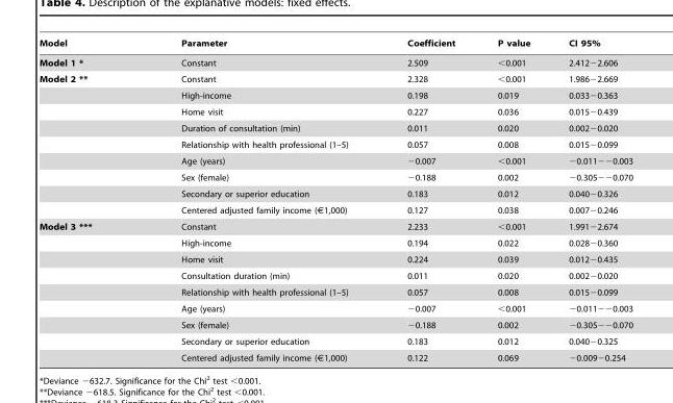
<table><thead><tr><td>Model</td><td>Parameter</td><td>Coefficient</td><td>P value</td><td>CI 95%</td></tr></thead><tbody><tr><td>Model 1 *</td><td>Constant</td><td>2.509</td><td>&lt;0.001</td><td>2.412−2.606</td></tr><tr><td rowspan="9">Model 2 **</td><td>Constant</td><td>2.328</td><td>&lt;0.001</td><td>1.986−2.669</td></tr><tr><td>High-income</td><td>0.198</td><td>0.019</td><td>0.033−0.363</td></tr><tr><td>Home visit</td><td>0.227</td><td>0.036</td><td>0.015−0.439</td></tr><tr><td>Duration of consultation (min)</td><td>0.011</td><td>0.020</td><td>0.002−0.020</td></tr><tr><td>Relationship with health professional (1–5)</td><td>0.057</td><td>0.008</td><td>0.015−0.099</td></tr><tr><td>Age (years)</td><td>−0.007</td><td>&lt;0.001</td><td>−0.011−−0.003</td></tr><tr><td>Sex (female)</td><td>−0.188</td><td>0.002</td><td>−0.305−−0.070</td></tr><tr><td>Secondary or superior education</td><td>0.183</td><td>0.012</td><td>0.040−0.326</td></tr><tr><td>Centered adjusted family income (€1,000)</td><td>0.127</td><td>0.038</td><td>0.007−0.246</td></tr><tr><td rowspan="9">Model 3 ***</td><td>Constant</td><td>2.233</td><td>&lt;0.001</td><td>1.991−2.674</td></tr><tr><td>High-income</td><td>0.194</td><td>0.022</td><td>0.028−0.360</td></tr><tr><td>Home visit</td><td>0.224</td><td>0.039</td><td>0.012−0.435</td></tr><tr><td>Consultation duration (min)</td><td>0.011</td><td>0.020</td><td>0.002−0.020</td></tr><tr><td>Relationship with health professional (1–5)</td><td>0.057</td><td>0.008</td><td>0.015−0.099</td></tr><tr><td>Age (years)</td><td>−0.007</td><td>&lt;0.001</td><td>−0.011−−0.003</td></tr><tr><td>Sex (female)</td><td>−0.188</td><td>0.002</td><td>−0.305−−0.070</td></tr><tr><td>Secondary or superior education</td><td>0.183</td><td>0.012</td><td>0.040−0.325</td></tr><tr><td>Centered adjusted family income (€1,000)</td><td>0.122</td><td>0.069</td><td>−0.009−0.254</td></tr></tbody></table>